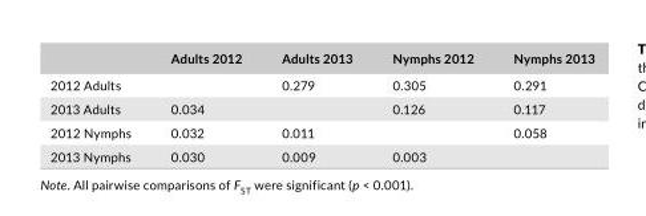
<table><thead><tr><td></td><td>Adults 2012</td><td>Adults 2013</td><td>Nymphs 2012</td><td>Nymphs 2013</td></tr></thead><tbody><tr><td>2012 Adults</td><td></td><td>0.279</td><td>0.305</td><td>0.291</td></tr><tr><td>2013 Adults</td><td>0.034</td><td></td><td>0.126</td><td>0.117</td></tr><tr><td>2012 Nymphs</td><td>0.032</td><td>0.011</td><td></td><td>0.058</td></tr><tr><td>2013 Nymphs</td><td>0.030</td><td>0.009</td><td>0.003</td><td></td></tr></tbody></table>